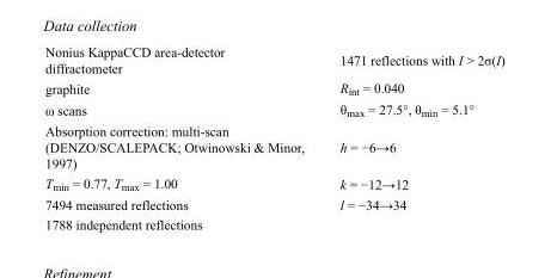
<table><tbody><tr><td>Nonius KappaCCD area-detector diffractometer</td><td>1471 reflections with I &gt; 2σ(I)</td></tr><tr><td>graphite</td><td>R<sub>int</sub> = 0.040</td></tr><tr><td>ω scans</td><td>θ<sub>max</sub> = 27.5°, θ<sub>min</sub> = 5.1°</td></tr><tr><td>Absorption correction: multi-scan (DENZO/SCALEPACK; Otwinowski &amp; Minor, 1997)</td><td>h = −6→6</td></tr><tr><td>T<sub>min</sub> = 0.77, T<sub>max</sub> = 1.00</td><td>k = −12→12</td></tr><tr><td>7494 measured reflections</td><td>l = −34→34</td></tr><tr><td>1788 independent reflections</td><td></td></tr></tbody></table>